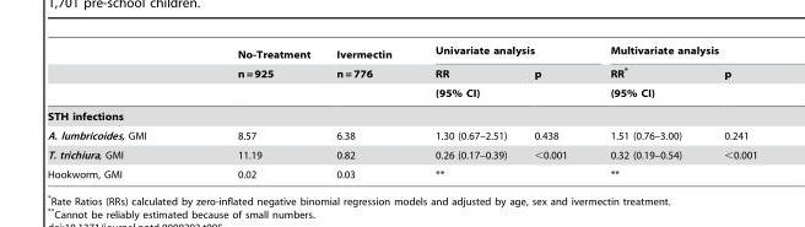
<table><thead><tr><td rowspan="3"></td><td rowspan="3">No-Treatment n = 925</td><td rowspan="3">Ivermectin n = 776</td><td colspan="2">Univariate analysis</td><td colspan="2">Multivariate analysis</td></tr><tr><td rowspan="2">RR (95% CI)</td><td rowspan="2">p</td><td rowspan="2">RR* (95% CI)</td><td rowspan="2">p</td></tr><tr></tr></thead><tbody><tr><td colspan="7">STH infections</td></tr><tr><td>A. lumbricoides, GMI</td><td>8.57</td><td>6.38</td><td>1.30 (0.67–2.51)</td><td>0.438</td><td>1.51 (0.76–3.00)</td><td>0.241</td></tr><tr><td>T. trichiura, GMI</td><td>11.19</td><td>0.82</td><td>0.26 (0.17–0.39)</td><td>&lt;0.001</td><td>0.32 (0.19–0.54)</td><td>&lt;0.001</td></tr><tr><td>Hookworm, GMI</td><td>0.02</td><td>0.03</td><td>**</td><td></td><td>**</td><td></td></tr></tbody></table>